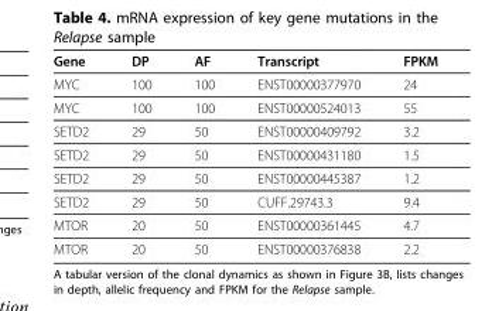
<table><thead><tr><td>Gene</td><td>DP</td><td>AF</td><td>Transcript</td><td>FPKM</td></tr></thead><tbody><tr><td>MYC</td><td>100</td><td>100</td><td>ENST00000377970</td><td>24</td></tr><tr><td>MYC</td><td>100</td><td>100</td><td>ENST00000524013</td><td>55</td></tr><tr><td>SETD2</td><td>29</td><td>50</td><td>ENST00000409792</td><td>3.2</td></tr><tr><td>SETD2</td><td>29</td><td>50</td><td>ENST00000431180</td><td>1.5</td></tr><tr><td>SETD2</td><td>29</td><td>50</td><td>ENST00000445387</td><td>1.2</td></tr><tr><td>SETD2</td><td>29</td><td>50</td><td>CUFF.29743.3</td><td>9.4</td></tr><tr><td>MTOR</td><td>20</td><td>50</td><td>ENST00000361445</td><td>4.7</td></tr><tr><td>MTOR</td><td>20</td><td>50</td><td>ENST00000376838</td><td>2.2</td></tr></tbody></table>